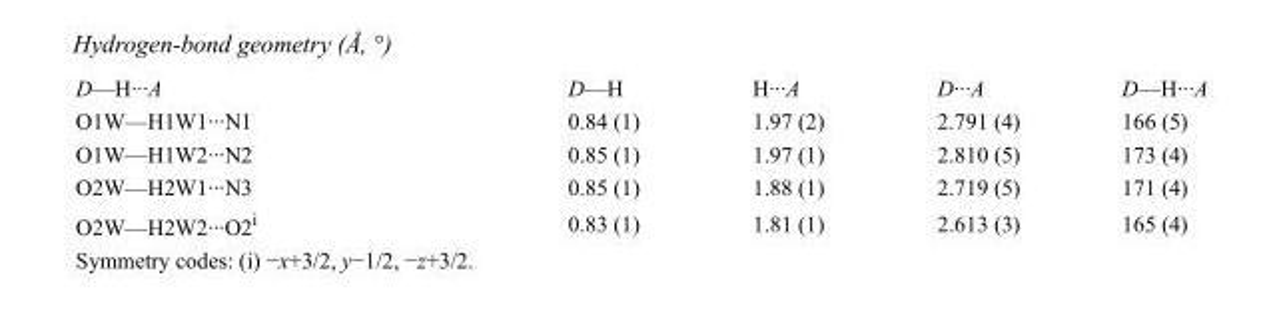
<table><tbody><tr><td>D—H···A</td><td>D—H</td><td>H···A</td><td>D···A</td><td>D—H···A</td></tr><tr><td>O1W—H1W1···N1</td><td>0.84 (1)</td><td>1.97 (2)</td><td>2.791 (4)</td><td>166 (5)</td></tr><tr><td>O1W—H1W2···N2</td><td>0.85 (1)</td><td>1.97 (1)</td><td>2.810 (5)</td><td>173 (4)</td></tr><tr><td>O2W—H2W1···N3</td><td>0.85 (1)</td><td>1.88 (1)</td><td>2.719 (5)</td><td>171 (4)</td></tr><tr><td>O2W—H2W2···O2<sup>i</sup></td><td>0.83 (1)</td><td>1.81 (1)</td><td>2.613 (3)</td><td>165 (4)</td></tr></tbody></table>